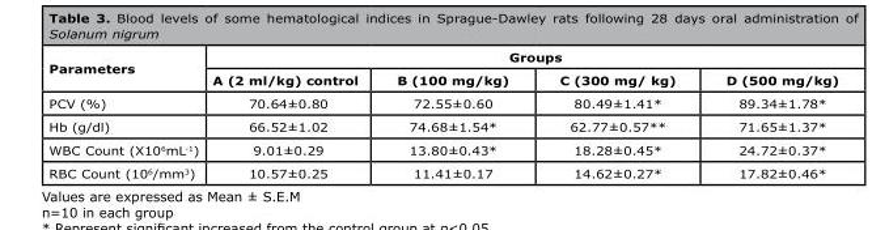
<table><thead><tr><td rowspan="2">Parameters</td><td colspan="4">Groups</td></tr><tr><td>A (2 ml/kg) control</td><td>B (100 mg/kg)</td><td>C (300 mg/ kg)</td><td>D (500 mg/kg)</td></tr></thead><tbody><tr><td>PCV (%)</td><td>70.64±0.80</td><td>72.55±0.60</td><td>80.49±1.41*</td><td>89.34±1.78*</td></tr><tr><td>Hb (g/dl)</td><td>66.52±1.02</td><td>74.68±1.54*</td><td>62.77±0.57**</td><td>71.65±1.37*</td></tr><tr><td>WBC Count (X10<sup>6</sup>mL<sup>-1</sup>)</td><td>9.01±0.29</td><td>13.80±0.43*</td><td>18.28±0.45*</td><td>24.72±0.37*</td></tr><tr><td>RBC Count (10<sup>6</sup>/mm<sup>3</sup>)</td><td>10.57±0.25</td><td>11.41±0.17</td><td>14.62±0.27*</td><td>17.82±0.46*</td></tr></tbody></table>